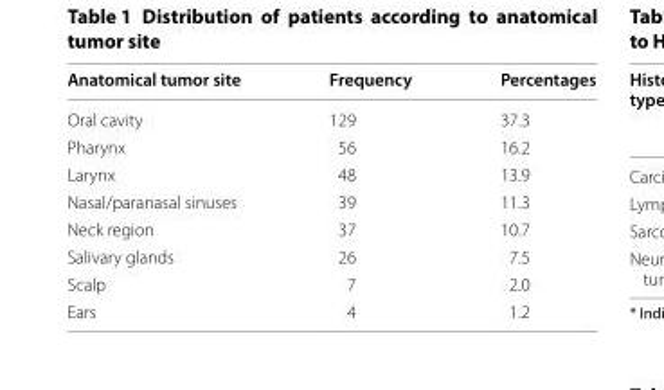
<table><thead><tr><td>Anatomical tumor site</td><td>Frequency</td><td>Percentages</td></tr></thead><tbody><tr><td>Oral cavity</td><td>129</td><td>37.3</td></tr><tr><td>Pharynx</td><td>56</td><td>16.2</td></tr><tr><td>Larynx</td><td>48</td><td>13.9</td></tr><tr><td>Nasal/paranasal sinuses</td><td>39</td><td>11.3</td></tr><tr><td>Neck region</td><td>37</td><td>10.7</td></tr><tr><td>Salivary glands</td><td>26</td><td>7.5</td></tr><tr><td>Scalp</td><td>7</td><td>2.0</td></tr><tr><td>Ears</td><td>4</td><td>1.2</td></tr></tbody></table>